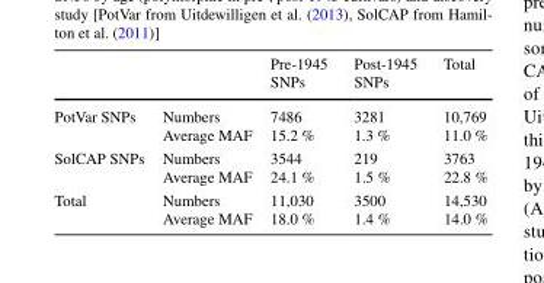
<table><thead><tr><td></td><td></td><td>Pre-1945 SNPs</td><td>Post-1945 SNPs</td><td>Total</td></tr></thead><tbody><tr><td>PotVar SNPs</td><td>Numbers Average MAF</td><td>7486 15.2 %</td><td>3281 1.3 %</td><td>10,769 11.0 %</td></tr><tr><td>SolCAP SNPs</td><td>Numbers Average MAF</td><td>3544 24.1 %</td><td>219 1.5 %</td><td>3763 22.8 %</td></tr><tr><td>Total</td><td>Numbers Average MAF</td><td>11,030 18.0 %</td><td>3500 1.4 %</td><td>14,530 14.0 %</td></tr></tbody></table>